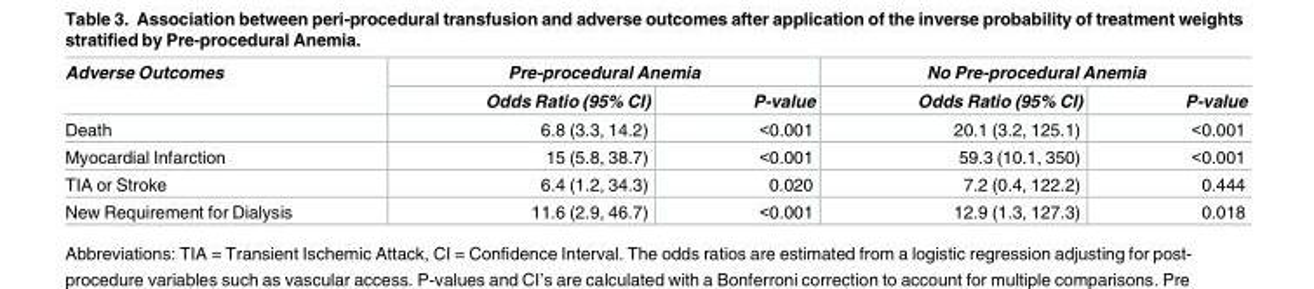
<table><thead><tr><td rowspan="2">Adverse Outcomes</td><td colspan="2">Pre-procedural Anemia</td><td colspan="2">No Pre-procedural Anemia</td></tr><tr><td>Odds Ratio (95% CI)</td><td>P-value</td><td>Odds Ratio (95% CI)</td><td>P-value</td></tr></thead><tbody><tr><td>Death</td><td>6.8 (3.3, 14.2)</td><td>&lt;0.001</td><td>20.1 (3.2, 125.1)</td><td>&lt;0.001</td></tr><tr><td>Myocardial Infarction</td><td>15 (5.8, 38.7)</td><td>&lt;0.001</td><td>59.3 (10.1, 350)</td><td>&lt;0.001</td></tr><tr><td>TIA or Stroke</td><td>6.4 (1.2, 34.3)</td><td>0.020</td><td>7.2 (0.4, 122.2)</td><td>0.444</td></tr><tr><td>New Requirement for Dialysis</td><td>11.6 (2.9, 46.7)</td><td>&lt;0.001</td><td>12.9 (1.3, 127.3)</td><td>0.018</td></tr></tbody></table>